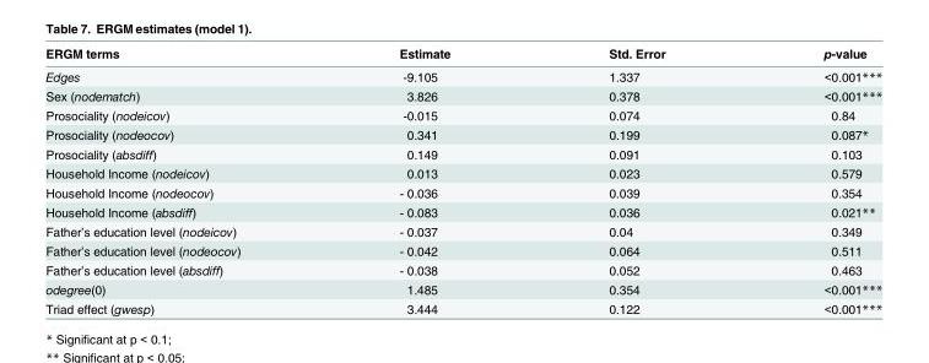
<table><thead><tr><td>ERGM terms</td><td>Estimate</td><td>Std. Error</td><td>p-value</td></tr></thead><tbody><tr><td>Edges</td><td>-9.105</td><td>1.337</td><td>&lt;0.001***</td></tr><tr><td>Sex (nodematch)</td><td>3.826</td><td>0.378</td><td>&lt;0.001***</td></tr><tr><td>Prosociality (nodeicov)</td><td>-0.015</td><td>0.074</td><td>0.84</td></tr><tr><td>Prosociality (nodeocov)</td><td>0.341</td><td>0.199</td><td>0.087*</td></tr><tr><td>Prosociality (absdiff)</td><td>0.149</td><td>0.091</td><td>0.103</td></tr><tr><td>Household Income (nodeicov)</td><td>0.013</td><td>0.023</td><td>0.579</td></tr><tr><td>Household Income (nodeocov)</td><td>- 0.036</td><td>0.039</td><td>0.354</td></tr><tr><td>Household Income (absdiff)</td><td>- 0.083</td><td>0.036</td><td>0.021**</td></tr><tr><td>Father’s education level (nodeicov)</td><td>- 0.037</td><td>0.04</td><td>0.349</td></tr><tr><td>Father’s education level (nodeocov)</td><td>- 0.042</td><td>0.064</td><td>0.511</td></tr><tr><td>Father’s education level (absdiff)</td><td>- 0.038</td><td>0.052</td><td>0.463</td></tr><tr><td>odegree(0)</td><td>1.485</td><td>0.354</td><td>&lt;0.001***</td></tr><tr><td>Triad effect (gwesp)</td><td>3.444</td><td>0.122</td><td>&lt;0.001***</td></tr></tbody></table>